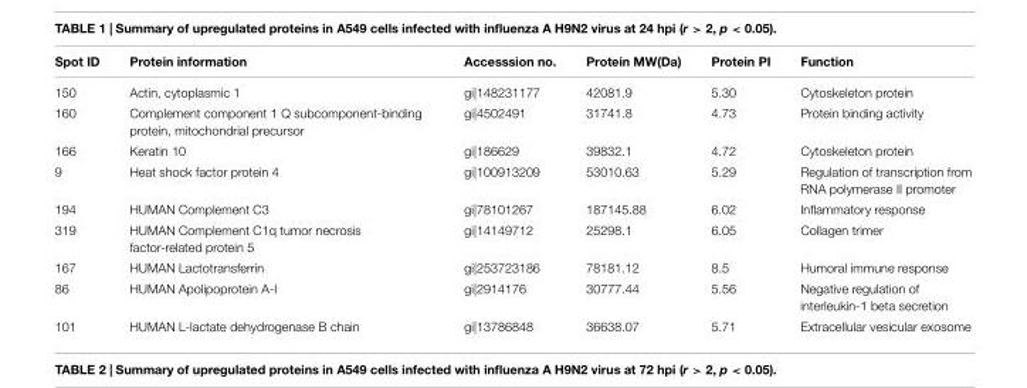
<table><thead><tr><td>Spot ID</td><td>Protein information</td><td>Accesssion no.</td><td>Protein MW(Da)</td><td>Protein PI</td><td>Function</td></tr></thead><tbody><tr><td>150</td><td>Actin, cytoplasmic 1</td><td>gi|148231177</td><td>42081.9</td><td>5.30</td><td>Cytoskeleton protein</td></tr><tr><td>160</td><td>Complement component 1 Q subcomponent-binding protein, mitochondrial precursor</td><td>gi|4502491</td><td>31741.8</td><td>4.73</td><td>Protein binding activity</td></tr><tr><td>166</td><td>Keratin 10</td><td>gi|186629</td><td>39832.1</td><td>4.72</td><td>Cytoskeleton protein</td></tr><tr><td>9</td><td>Heat shock factor protein 4</td><td>gi|100913209</td><td>53010.63</td><td>5.29</td><td>Regulation of transcription from RNA polymerase II promoter</td></tr><tr><td>194</td><td>HUMAN Complement C3</td><td>gi|78101267</td><td>187145.88</td><td>6.02</td><td>Inflammatory response</td></tr><tr><td>319</td><td>HUMAN Complement C1q tumor necrosis factor-related protein 5</td><td>gi|14149712</td><td>25298.1</td><td>6.05</td><td>Collagen trimer</td></tr><tr><td>167</td><td>HUMAN Lactotransferrin</td><td>gi|253723186</td><td>78181.12</td><td>8.5</td><td>Humoral immune response</td></tr><tr><td>86</td><td>HUMAN Apolipoprotein A-I</td><td>gi|2914176</td><td>30777.44</td><td>5.56</td><td>Negative regulation of interleukin-1 beta secretion</td></tr><tr><td>101</td><td>HUMAN L-lactate dehydrogenase B chain</td><td>gi|13786848</td><td>36638.07</td><td>5.71</td><td>Extracellular vesicular exosome</td></tr></tbody></table>